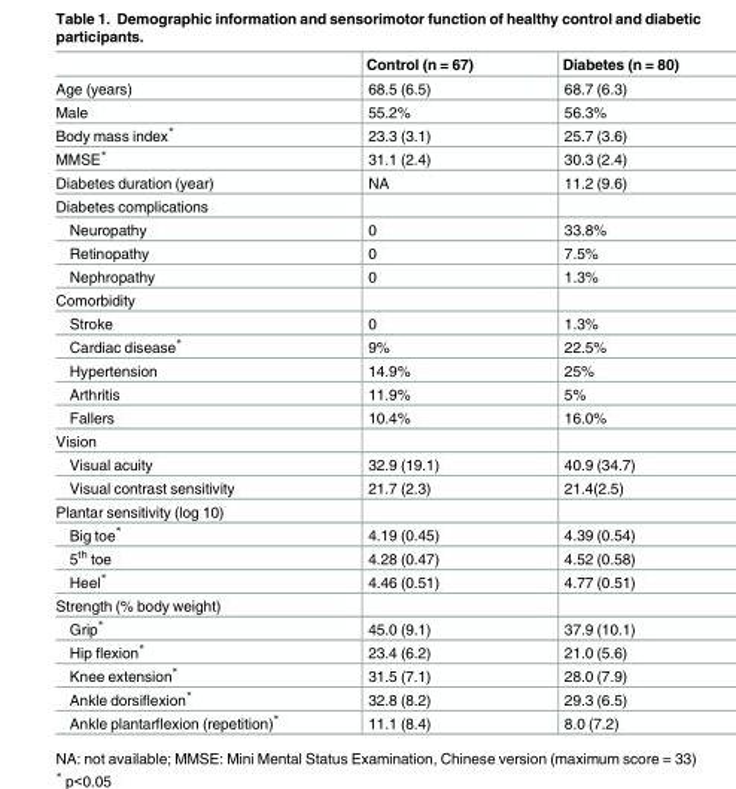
<table><thead><tr><td></td><td>Control (n = 67)</td><td>Diabetes (n = 80)</td></tr></thead><tbody><tr><td>Age (years)</td><td>68.5 (6.5)</td><td>68.7 (6.3)</td></tr><tr><td>Male</td><td>55.2%</td><td>56.3%</td></tr><tr><td>Body mass index*</td><td>23.3 (3.1)</td><td>25.7 (3.6)</td></tr><tr><td>MMSE*</td><td>31.1 (2.4)</td><td>30.3 (2.4)</td></tr><tr><td>Diabetes duration (year)</td><td>NA</td><td>11.2 (9.6)</td></tr><tr><td colspan="3">Diabetes complications</td></tr><tr><td>Neuropathy</td><td>0</td><td>33.8%</td></tr><tr><td>Retinopathy</td><td>0</td><td>7.5%</td></tr><tr><td>Nephropathy</td><td>0</td><td>1.3%</td></tr><tr><td colspan="3">Comorbidity</td></tr><tr><td>Stroke</td><td>0</td><td>1.3%</td></tr><tr><td>Cardiac disease*</td><td>9%</td><td>22.5%</td></tr><tr><td>Hypertension</td><td>14.9%</td><td>25%</td></tr><tr><td>Arthritis</td><td>11.9%</td><td>5%</td></tr><tr><td>Fallers</td><td>10.4%</td><td>16.0%</td></tr><tr><td colspan="3">Vision</td></tr><tr><td>Visual acuity</td><td>32.9 (19.1)</td><td>40.9 (34.7)</td></tr><tr><td>Visual contrast sensitivity</td><td>21.7 (2.3)</td><td>21.4(2.5)</td></tr><tr><td colspan="3">Plantar sensitivity (log 10)</td></tr><tr><td>Big toe*</td><td>4.19 (0.45)</td><td>4.39 (0.54)</td></tr><tr><td>5<sup>th</sup> toe</td><td>4.28 (0.47)</td><td>4.52 (0.58)</td></tr><tr><td>Heel*</td><td>4.46 (0.51)</td><td>4.77 (0.51)</td></tr><tr><td colspan="3">Strength (% body weight)</td></tr><tr><td>Grip*</td><td>45.0 (9.1)</td><td>37.9 (10.1)</td></tr><tr><td>Hip flexion*</td><td>23.4 (6.2)</td><td>21.0 (5.6)</td></tr><tr><td>Knee extension*</td><td>31.5 (7.1)</td><td>28.0 (7.9)</td></tr><tr><td>Ankle dorsiflexion*</td><td>32.8 (8.2)</td><td>29.3 (6.5)</td></tr><tr><td>Ankle plantarflexion (repetition)*</td><td>11.1 (8.4)</td><td>8.0 (7.2)</td></tr></tbody></table>